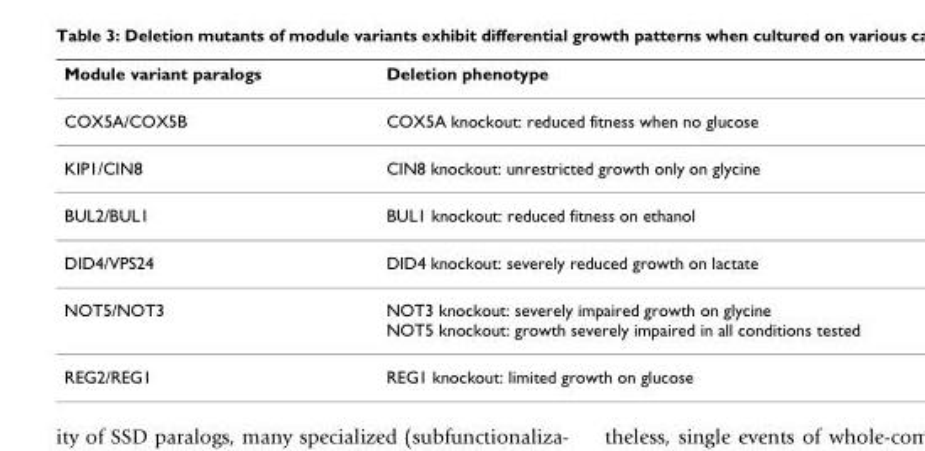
<table><thead><tr><td>Module variant paralogs</td><td>Deletion phenotype</td></tr></thead><tbody><tr><td>COX5A/COX5B</td><td>COX5A knockout: reduced fitness when no glucose</td></tr><tr><td>KIP1/CIN8</td><td>CIN8 knockout: unrestricted growth only on glycine</td></tr><tr><td>BUL2/BUL1</td><td>BUL1 knockout: reduced fitness on ethanol</td></tr><tr><td>DID4/VPS24</td><td>DID4 knockout: severely reduced growth on lactate</td></tr><tr><td>NOT5/NOT3</td><td>NOT3 knockout: severely impaired growth on glycine NOT5 knockout: growth severely impaired in all conditions tested</td></tr><tr><td>REG2/REG1</td><td>REG1 knockout: limited growth on glucose</td></tr></tbody></table>